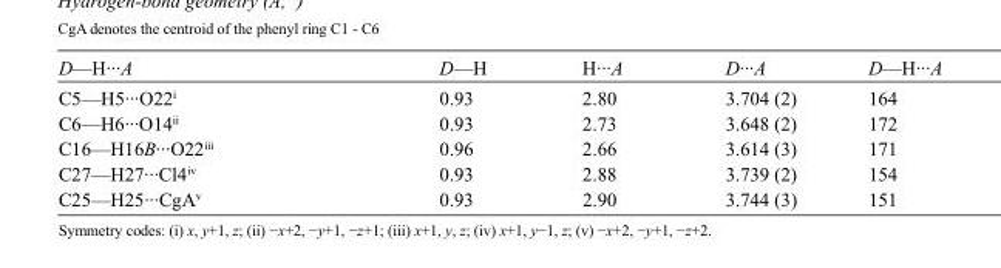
<table><tbody><tr><td>D—H···A</td><td>D—H</td><td>H···A</td><td>D···A</td><td>D—H···A</td></tr><tr><td>C5—H5···O22<sup>i</sup></td><td>0.93</td><td>2.80</td><td>3.704 (2)</td><td>164</td></tr><tr><td>C6—H6···O14<sup>ii</sup></td><td>0.93</td><td>2.73</td><td>3.648 (2)</td><td>172</td></tr><tr><td>C16—H16B···O22<sup>iii</sup></td><td>0.96</td><td>2.66</td><td>3.614 (3)</td><td>171</td></tr><tr><td>C27—H27···Cl4<sup>iv</sup></td><td>0.93</td><td>2.88</td><td>3.739 (2)</td><td>154</td></tr><tr><td>C25—H25···CgA<sup>v</sup></td><td>0.93</td><td>2.90</td><td>3.744 (3)</td><td>151</td></tr></tbody></table>